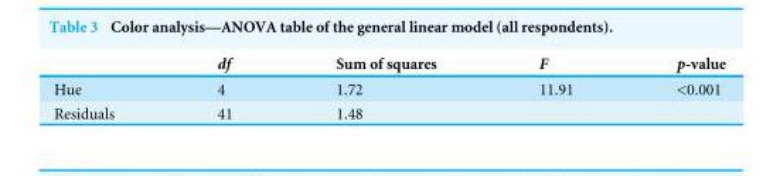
<table><thead><tr><td></td><td>df</td><td>Sum of squares</td><td>F</td><td>p-value</td></tr></thead><tbody><tr><td>Hue</td><td>4</td><td>1.72</td><td>11.91</td><td>&lt;0.001</td></tr><tr><td>Residuals</td><td>41</td><td>1.48</td><td></td><td></td></tr></tbody></table>